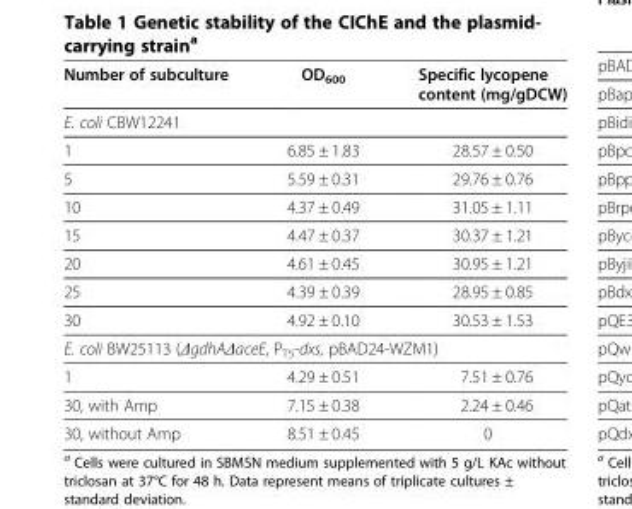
<table><thead><tr><td>Number of subculture</td><td>OD<sub>600</sub></td><td>Specific lycopene content (mg/gDCW)</td></tr></thead><tbody><tr><td colspan="3">E. coli CBW12241</td></tr><tr><td>1</td><td>6.85 ± 1.83</td><td>28.57 ± 0.50</td></tr><tr><td>5</td><td>5.59 ± 0.31</td><td>29.76 ± 0.76</td></tr><tr><td>10</td><td>4.37 ± 0.49</td><td>31.05 ± 1.11</td></tr><tr><td>15</td><td>4.47 ± 0.37</td><td>30.37 ± 1.21</td></tr><tr><td>20</td><td>4.61 ± 0.45</td><td>30.95 ± 1.21</td></tr><tr><td>25</td><td>4.39 ± 0.39</td><td>28.95 ± 0.85</td></tr><tr><td>30</td><td>4.92 ± 0.10</td><td>30.53 ± 1.53</td></tr><tr><td colspan="3">E. coli BW25113 (ΔgdhAΔaceE, P<sub>T5</sub>-dxs, pBAD24-WZM1)</td></tr><tr><td>1</td><td>4.29 ± 0.51</td><td>7.51 ± 0.76</td></tr><tr><td>30, with Amp</td><td>7.15 ± 0.38</td><td>2.24 ± 0.46</td></tr><tr><td>30, without Amp</td><td>8.51 ± 0.45</td><td>0</td></tr></tbody></table>